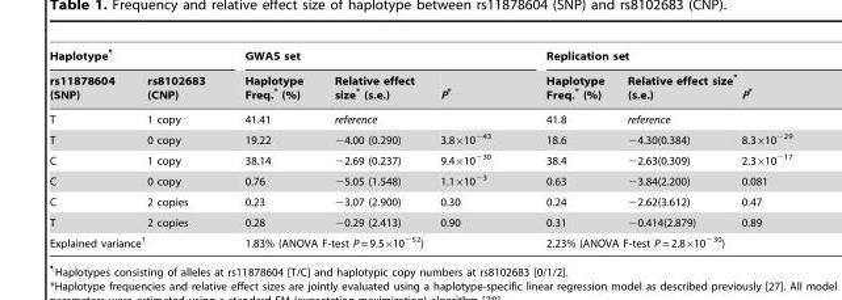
<table><thead><tr><td colspan="2">Haplotype¶</td><td colspan="3">GWAS set</td><td colspan="3">Replication set</td></tr><tr><td>rs11878604 (SNP)</td><td>rs8102683 (CNP)</td><td>Haplotype Freq.* (%)</td><td>Relative effect size* (s.e.)</td><td>P*</td><td>Haplotype Freq.* (%)</td><td>Relative effect size* (s.e.)</td><td>P*</td></tr></thead><tbody><tr><td>T</td><td>1 copy</td><td>41.41</td><td colspan="2">reference</td><td>41.8</td><td colspan="2">reference</td></tr><tr><td>T</td><td>0 copy</td><td>19.22</td><td>−4.00 (0.290)</td><td>3.8×10<sup>−43</sup></td><td>18.6</td><td>−4.30(0.384)</td><td>8.3×10<sup>−29</sup></td></tr><tr><td>C</td><td>1 copy</td><td>38.14</td><td>−2.69 (0.237)</td><td>9.4×10<sup>−30</sup></td><td>38.4</td><td>−2.63(0.309)</td><td>2.3×10<sup>−17</sup></td></tr><tr><td>C</td><td>0 copy</td><td>0.76</td><td>−5.05 (1.548)</td><td>1.1×10<sup>−3</sup></td><td>0.63</td><td>−3.84(2.200)</td><td>0.081</td></tr><tr><td>C</td><td>2 copies</td><td>0.23</td><td>−3.07 (2.900)</td><td>0.30</td><td>0.24</td><td>−2.62(3.612)</td><td>0.47</td></tr><tr><td>T</td><td>2 copies</td><td>0.28</td><td>−0.29 (2.413)</td><td>0.90</td><td>0.31</td><td>−0.414(2.879)</td><td>0.89</td></tr><tr><td colspan="2">Explained variance†</td><td colspan="3">1.83% (ANOVA F-test P = 9.5×10<sup>−52</sup>)</td><td colspan="3">2.23% (ANOVA F-test P = 2.8×10<sup>−30</sup>)</td></tr></tbody></table>